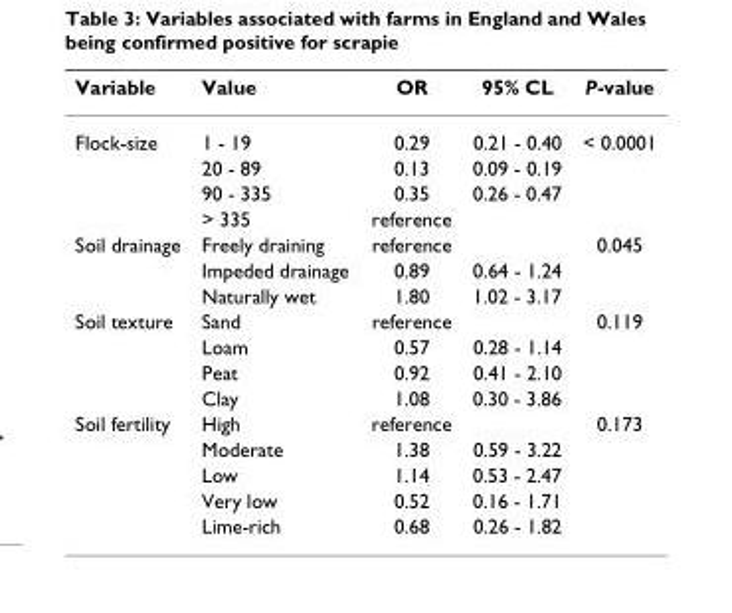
<table><thead><tr><td>Variable</td><td>Value</td><td>OR</td><td>95% CL</td><td>P-value</td></tr></thead><tbody><tr><td rowspan="4">Flock-size</td><td>1 - 19</td><td>0.29</td><td>0.21 - 0.40</td><td>&lt; 0.0001</td></tr><tr><td>20 - 89</td><td>0.13</td><td>0.09 - 0.19</td><td></td></tr><tr><td>90 - 335</td><td>0.35</td><td>0.26 - 0.47</td><td></td></tr><tr><td>&gt; 335</td><td>reference</td><td></td><td></td></tr><tr><td rowspan="3">Soil drainage</td><td>Freely draining</td><td>reference</td><td></td><td>0.045</td></tr><tr><td>Impeded drainage</td><td>0.89</td><td>0.64 - 1.24</td><td></td></tr><tr><td>Naturally wet</td><td>1.80</td><td>1.02 - 3.17</td><td></td></tr><tr><td rowspan="4">Soil texture</td><td>Sand</td><td>reference</td><td></td><td>0.119</td></tr><tr><td>Loam</td><td>0.57</td><td>0.28 - 1.14</td><td></td></tr><tr><td>Peat</td><td>0.92</td><td>0.41 - 2.10</td><td></td></tr><tr><td>Clay</td><td>1.08</td><td>0.30 - 3.86</td><td></td></tr><tr><td rowspan="5">Soil fertility</td><td>High</td><td>reference</td><td></td><td>0.173</td></tr><tr><td>Moderate</td><td>1.38</td><td>0.59 - 3.22</td><td></td></tr><tr><td>Low</td><td>1.14</td><td>0.53 - 2.47</td><td></td></tr><tr><td>Very low</td><td>0.52</td><td>0.16 - 1.71</td><td></td></tr><tr><td>Lime-rich</td><td>0.68</td><td>0.26 - 1.82</td><td></td></tr></tbody></table>